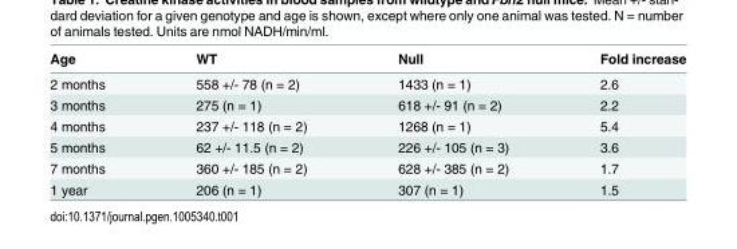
<table><thead><tr><td>Age</td><td>WT</td><td>Null</td><td>Fold increase</td></tr></thead><tbody><tr><td>2 months</td><td>558 +/- 78 (n = 2)</td><td>1433 (n = 1)</td><td>2.6</td></tr><tr><td>3 months</td><td>275 (n = 1)</td><td>618 +/- 91 (n = 2)</td><td>2.2</td></tr><tr><td>4 months</td><td>237 +/- 118 (n = 2)</td><td>1268 (n = 1)</td><td>5.4</td></tr><tr><td>5 months</td><td>62 +/- 11.5 (n = 2)</td><td>226 +/- 105 (n = 3)</td><td>3.6</td></tr><tr><td>7 months</td><td>360 +/- 185 (n = 2)</td><td>628 +/- 385 (n = 2)</td><td>1.7</td></tr><tr><td>1 year</td><td>206 (n = 1)</td><td>307 (n = 1)</td><td>1.5</td></tr></tbody></table>